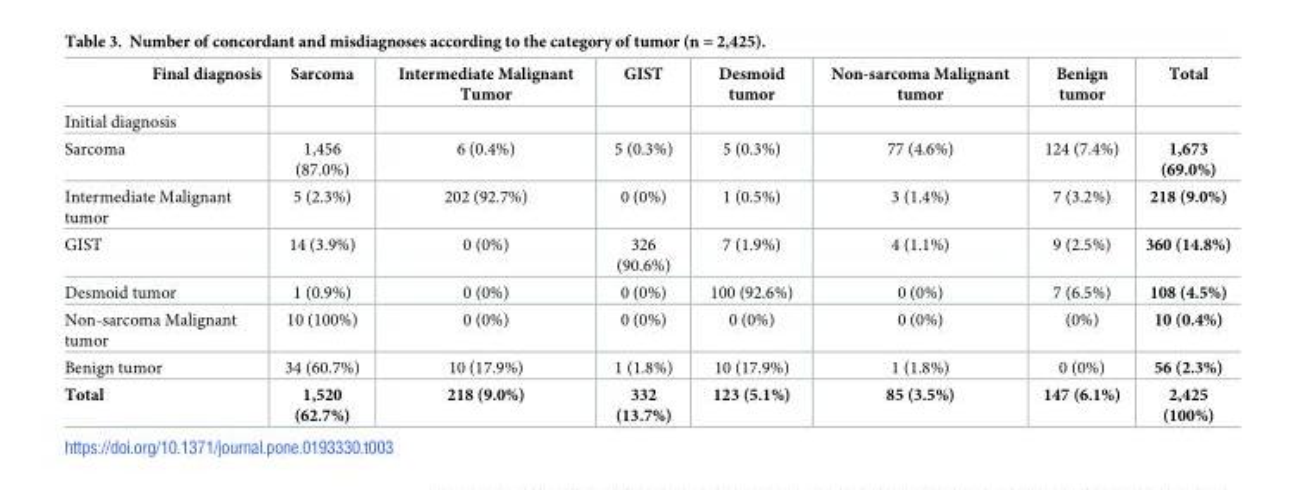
<table><thead><tr><td>Final diagnosis</td><td>Sarcoma</td><td>Intermediate Malignant Tumor</td><td>GIST</td><td>Desmoid tumor</td><td>Non-sarcoma Malignant tumor</td><td>Benign tumor</td><td>Total</td></tr></thead><tbody><tr><td colspan="8">Initial diagnosis</td></tr><tr><td>Sarcoma</td><td>1,456 (87.0%)</td><td>6 (0.4%)</td><td>5 (0.3%)</td><td>5 (0.3%)</td><td>77 (4.6%)</td><td>124 (7.4%)</td><td>1,673 (69.0%)</td></tr><tr><td>Intermediate Malignant tumor</td><td>5 (2.3%)</td><td>202 (92.7%)</td><td>0 (0%)</td><td>1 (0.5%)</td><td>3 (1.4%)</td><td>7 (3.2%)</td><td>218 (9.0%)</td></tr><tr><td>GIST</td><td>14 (3.9%)</td><td>0 (0%)</td><td>326 (90.6%)</td><td>7 (1.9%)</td><td>4 (1.1%)</td><td>9 (2.5%)</td><td>360 (14.8%)</td></tr><tr><td>Desmoid tumor</td><td>1 (0.9%)</td><td>0 (0%)</td><td>0 (0%)</td><td>100 (92.6%)</td><td>0 (0%)</td><td>7 (6.5%)</td><td>108 (4.5%)</td></tr><tr><td>Non-sarcoma Malignant tumor</td><td>10 (100%)</td><td>0 (0%)</td><td>0 (0%)</td><td>0 (0%)</td><td>0 (0%)</td><td>(0%)</td><td>10 (0.4%)</td></tr><tr><td>Benign tumor</td><td>34 (60.7%)</td><td>10 (17.9%)</td><td>1 (1.8%)</td><td>10 (17.9%)</td><td>1 (1.8%)</td><td>0 (0%)</td><td>56 (2.3%)</td></tr><tr><td>Total</td><td>1,520 (62.7%)</td><td>218 (9.0%)</td><td>332 (13.7%)</td><td>123 (5.1%)</td><td>85 (3.5%)</td><td>147 (6.1%)</td><td>2,425 (100%)</td></tr></tbody></table>